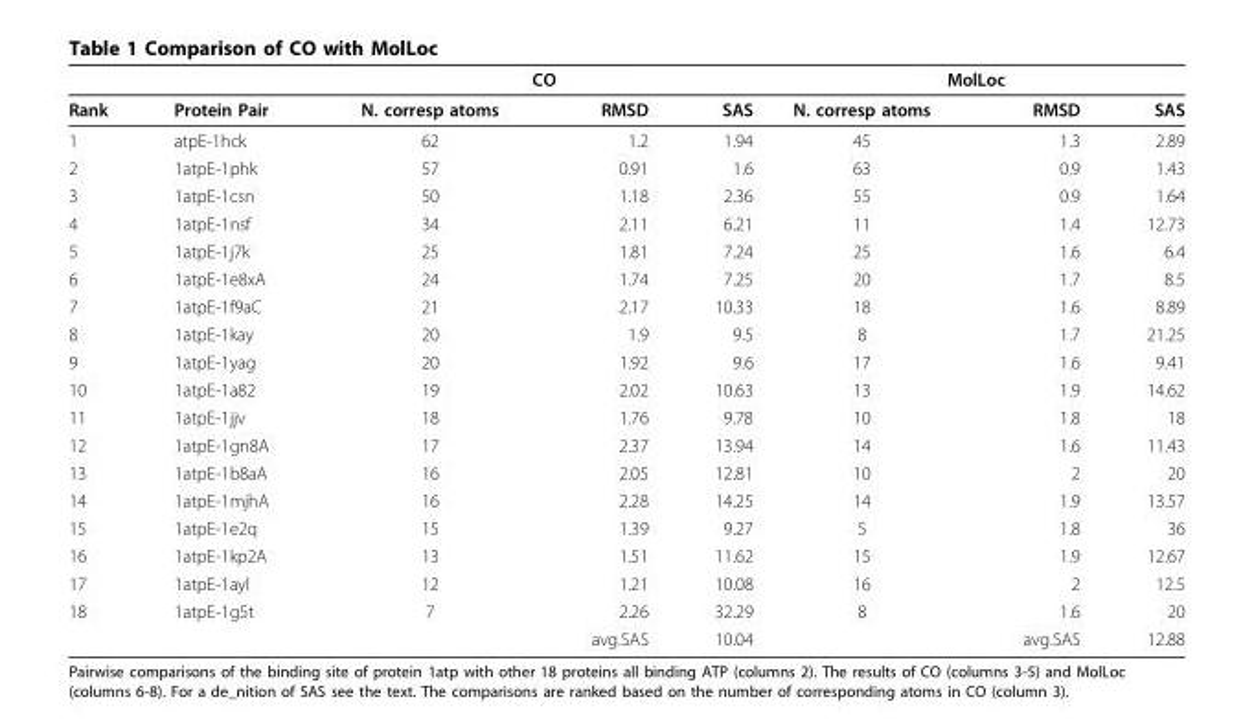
<table><thead><tr><td rowspan="2">Rank</td><td rowspan="2">Protein Pair</td><td colspan="3">CO</td><td colspan="3">MolLoc</td></tr><tr><td>N. corresp atoms</td><td>RMSD</td><td>SAS</td><td>N. corresp atoms</td><td>RMSD</td><td>SAS</td></tr></thead><tbody><tr><td>1</td><td>atpE-1hck</td><td>62</td><td>1.2</td><td>1.94</td><td>45</td><td>1.3</td><td>2.89</td></tr><tr><td>2</td><td>1atpE-1phk</td><td>57</td><td>0.91</td><td>1.6</td><td>63</td><td>0.9</td><td>1.43</td></tr><tr><td>3</td><td>1atpE-1csn</td><td>50</td><td>1.18</td><td>2.36</td><td>55</td><td>0.9</td><td>1.64</td></tr><tr><td>4</td><td>1atpE-1nsf</td><td>34</td><td>2.11</td><td>6.21</td><td>11</td><td>1.4</td><td>12.73</td></tr><tr><td>5</td><td>1atpE-1j7k</td><td>25</td><td>1.81</td><td>7.24</td><td>25</td><td>1.6</td><td>6.4</td></tr><tr><td>6</td><td>1atpE-1e8xA</td><td>24</td><td>1.74</td><td>7.25</td><td>20</td><td>1.7</td><td>8.5</td></tr><tr><td>7</td><td>1atpE-1f9aC</td><td>21</td><td>2.17</td><td>10.33</td><td>18</td><td>1.6</td><td>8.89</td></tr><tr><td>8</td><td>1atpE-1kay</td><td>20</td><td>1.9</td><td>9.5</td><td>8</td><td>1.7</td><td>21.25</td></tr><tr><td>9</td><td>1atpE-1yag</td><td>20</td><td>1.92</td><td>9.6</td><td>17</td><td>1.6</td><td>9.41</td></tr><tr><td>10</td><td>1atpE-1a82</td><td>19</td><td>2.02</td><td>10.63</td><td>13</td><td>1.9</td><td>14.62</td></tr><tr><td>11</td><td>1atpE-1jjv</td><td>18</td><td>1.76</td><td>9.78</td><td>10</td><td>1.8</td><td>18</td></tr><tr><td>12</td><td>1atpE-1gn8A</td><td>17</td><td>2.37</td><td>13.94</td><td>14</td><td>1.6</td><td>11.43</td></tr><tr><td>13</td><td>1atpE-1b8aA</td><td>16</td><td>2.05</td><td>12.81</td><td>10</td><td>2</td><td>20</td></tr><tr><td>14</td><td>1atpE-1mjhA</td><td>16</td><td>2.28</td><td>14.25</td><td>14</td><td>1.9</td><td>13.57</td></tr><tr><td>15</td><td>1atpE-1e2q</td><td>15</td><td>1.39</td><td>9.27</td><td>5</td><td>1.8</td><td>36</td></tr><tr><td>16</td><td>1atpE-1kp2A</td><td>13</td><td>1.51</td><td>11.62</td><td>15</td><td>1.9</td><td>12.67</td></tr><tr><td>17</td><td>1atpE-1ayl</td><td>12</td><td>1.21</td><td>10.08</td><td>16</td><td>2</td><td>12.5</td></tr><tr><td rowspan="2">18</td><td>1atpE-1g5t</td><td>7</td><td>2.26</td><td>32.29</td><td>8</td><td>1.6</td><td>20</td></tr><tr><td></td><td></td><td>avg.SAS</td><td>10.04</td><td></td><td>avg.SAS</td><td>12.88</td></tr></tbody></table>